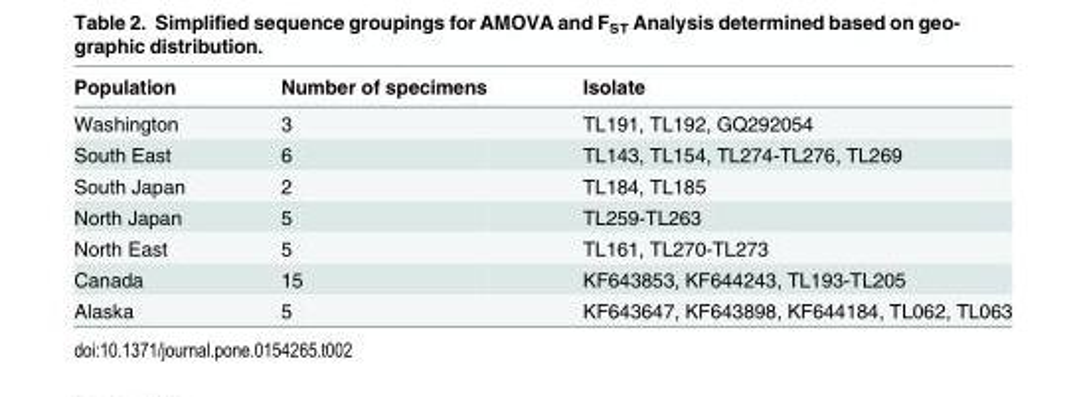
<table><thead><tr><td>Population</td><td>Number of specimens</td><td>Isolate</td></tr></thead><tbody><tr><td>Washington</td><td>3</td><td>TL191, TL192, GQ292054</td></tr><tr><td>South East</td><td>6</td><td>TL143, TL154, TL274-TL276, TL269</td></tr><tr><td>South Japan</td><td>2</td><td>TL184, TL185</td></tr><tr><td>North Japan</td><td>5</td><td>TL259-TL263</td></tr><tr><td>North East</td><td>5</td><td>TL161, TL270-TL273</td></tr><tr><td>Canada</td><td>15</td><td>KF643853, KF644243, TL193-TL205</td></tr><tr><td>Alaska</td><td>5</td><td>KF643647, KF643898, KF644184, TL062, TL063</td></tr></tbody></table>